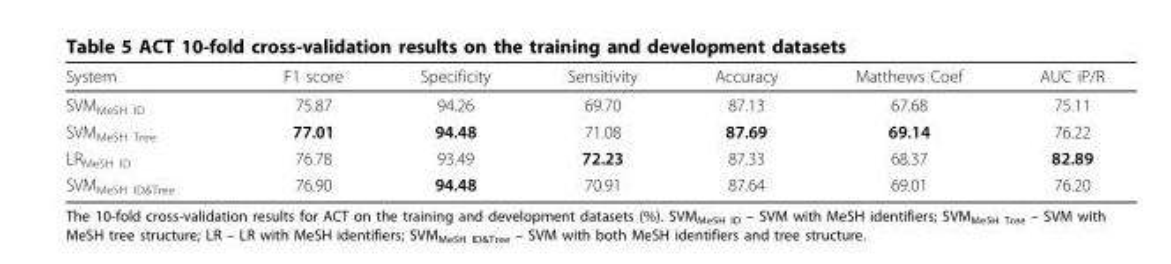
<table><thead><tr><td>System</td><td>F1 score</td><td>Specificity</td><td>Sensitivity</td><td>Accuracy</td><td>Matthews Coef</td><td>AUC iP/R</td></tr></thead><tbody><tr><td>SVM<sub>MeSH ID</sub></td><td>75.87</td><td>94.26</td><td>69.70</td><td>87.13</td><td>67.68</td><td>75.11</td></tr><tr><td>SVM<sub>MeSH Tree</sub></td><td>77.01</td><td>94.48</td><td>71.08</td><td>87.69</td><td>69.14</td><td>76.22</td></tr><tr><td>LR<sub>MeSH ID</sub></td><td>76.78</td><td>93.49</td><td>72.23</td><td>87.33</td><td>68.37</td><td>82.89</td></tr><tr><td>SVM<sub>MeSH ID&amp;Tree</sub></td><td>76.90</td><td>94.48</td><td>70.91</td><td>87.64</td><td>69.01</td><td>76.20</td></tr></tbody></table>